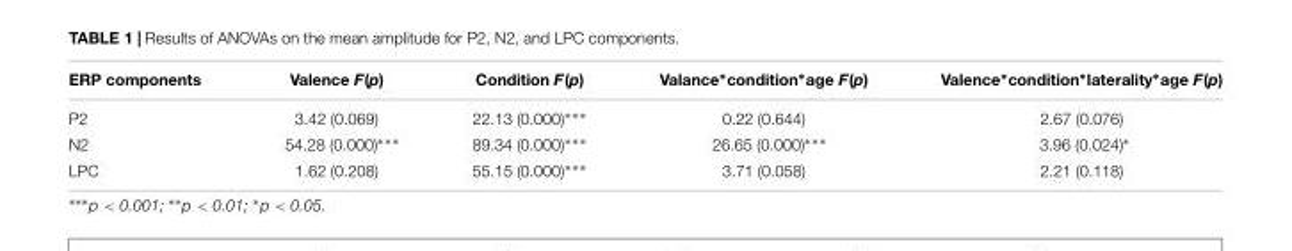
<table><thead><tr><td>ERP components</td><td>Valence F(p)</td><td>Condition F(p)</td><td>Valance∗condition∗age F(p)</td><td>Valence∗condition∗laterality∗age F(p)</td></tr></thead><tbody><tr><td>P2</td><td>3.42 (0.069)</td><td>22.13 (0.000)∗∗∗</td><td>0.22 (0.644)</td><td>2.67 (0.076)</td></tr><tr><td>N2</td><td>54.28 (0.000)∗∗∗</td><td>89.34 (0.000)∗∗∗</td><td>26.65 (0.000)∗∗∗</td><td>3.96 (0.024)∗</td></tr><tr><td>LPC</td><td>1.62 (0.208)</td><td>55.15 (0.000)∗∗∗</td><td>3.71 (0.058)</td><td>2.21 (0.118)</td></tr></tbody></table>